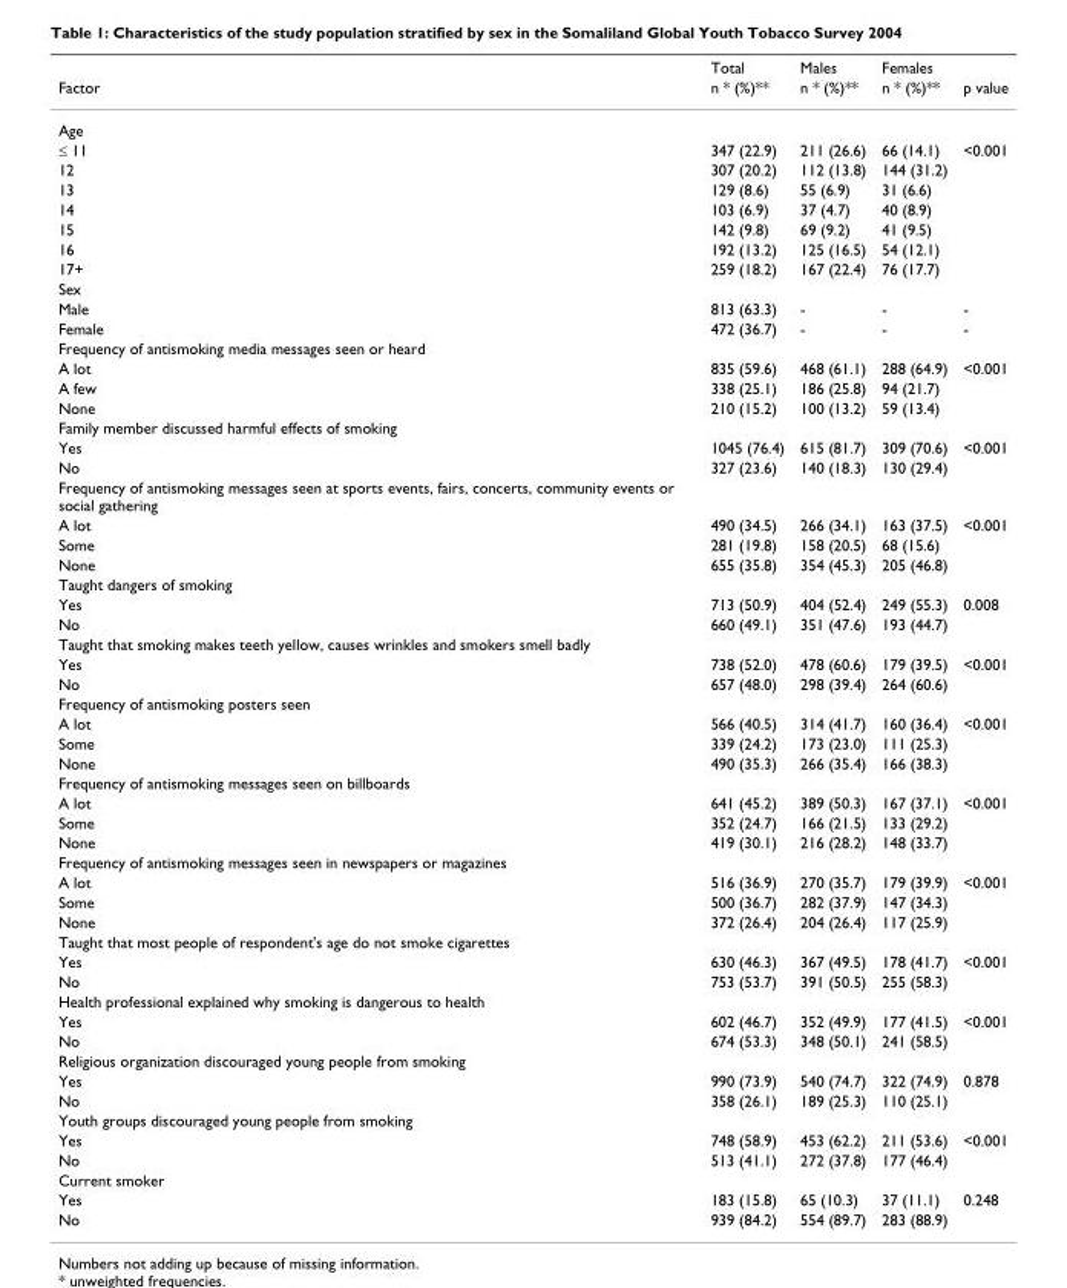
<table><thead><tr><td rowspan="2">Factor</td><td rowspan="2">Total n * (%)**</td><td rowspan="2">Males n * (%)**</td><td rowspan="2">Females n * (%)**</td><td rowspan="2">p value</td></tr><tr></tr></thead><tbody><tr><td colspan="5">Age</td></tr><tr><td>≤ 11</td><td>347 (22.9)</td><td>211 (26.6)</td><td>66 (14.1)</td><td>&lt;0.001</td></tr><tr><td>12</td><td>307 (20.2)</td><td>112 (13.8)</td><td>144 (31.2)</td><td></td></tr><tr><td>13</td><td>129 (8.6)</td><td>55 (6.9)</td><td>31 (6.6)</td><td></td></tr><tr><td>14</td><td>103 (6.9)</td><td>37 (4.7)</td><td>40 (8.9)</td><td></td></tr><tr><td>15</td><td>142 (9.8)</td><td>69 (9.2)</td><td>41 (9.5)</td><td></td></tr><tr><td>16</td><td>192 (13.2)</td><td>125 (16.5)</td><td>54 (12.1)</td><td></td></tr><tr><td>17+</td><td>259 (18.2)</td><td>167 (22.4)</td><td>76 (17.7)</td><td></td></tr><tr><td colspan="5">Sex</td></tr><tr><td>Male</td><td>813 (63.3)</td><td>-</td><td>-</td><td>-</td></tr><tr><td>Female</td><td>472 (36.7)</td><td>-</td><td>-</td><td>-</td></tr><tr><td colspan="5">Frequency of antismoking media messages seen or heard</td></tr><tr><td>A lot</td><td>835 (59.6)</td><td>468 (61.1)</td><td>288 (64.9)</td><td>&lt;0.001</td></tr><tr><td>A few</td><td>338 (25.1)</td><td>186 (25.8)</td><td>94 (21.7)</td><td></td></tr><tr><td>None</td><td>210 (15.2)</td><td>100 (13.2)</td><td>59 (13.4)</td><td></td></tr><tr><td colspan="5">Family member discussed harmful effects of smoking</td></tr><tr><td>Yes</td><td>1045 (76.4)</td><td>615 (81.7)</td><td>309 (70.6)</td><td>&lt;0.001</td></tr><tr><td>No</td><td>327 (23.6)</td><td>140 (18.3)</td><td>130 (29.4)</td><td></td></tr><tr><td colspan="5">Frequency of antismoking messages seen at sports events, fairs, concerts, community events or social gathering</td></tr><tr><td>A lot</td><td>490 (34.5)</td><td>266 (34.1)</td><td>163 (37.5)</td><td>&lt;0.001</td></tr><tr><td>Some</td><td>281 (19.8)</td><td>158 (20.5)</td><td>68 (15.6)</td><td></td></tr><tr><td>None</td><td>655 (35.8)</td><td>354 (45.3)</td><td>205 (46.8)</td><td></td></tr><tr><td colspan="5">Taught dangers of smoking</td></tr><tr><td>Yes</td><td>713 (50.9)</td><td>404 (52.4)</td><td>249 (55.3)</td><td>0.008</td></tr><tr><td>No</td><td>660 (49.1)</td><td>351 (47.6)</td><td>193 (44.7)</td><td></td></tr><tr><td colspan="5">Taught that smoking makes teeth yellow, causes wrinkles and smokers smell badly</td></tr><tr><td>Yes</td><td>738 (52.0)</td><td>478 (60.6)</td><td>179 (39.5)</td><td>&lt;0.001</td></tr><tr><td>No</td><td>657 (48.0)</td><td>298 (39.4)</td><td>264 (60.6)</td><td></td></tr><tr><td colspan="5">Frequency of antismoking posters seen</td></tr><tr><td>A lot</td><td>566 (40.5)</td><td>314 (41.7)</td><td>160 (36.4)</td><td>&lt;0.001</td></tr><tr><td>Some</td><td>339 (24.2)</td><td>173 (23.0)</td><td>111 (25.3)</td><td></td></tr><tr><td>None</td><td>490 (35.3)</td><td>266 (35.4)</td><td>166 (38.3)</td><td></td></tr><tr><td colspan="5">Frequency of antismoking messages seen on billboards</td></tr><tr><td>A lot</td><td>641 (45.2)</td><td>389 (50.3)</td><td>167 (37.1)</td><td>&lt;0.001</td></tr><tr><td>Some</td><td>352 (24.7)</td><td>166 (21.5)</td><td>133 (29.2)</td><td></td></tr><tr><td>None</td><td>419 (30.1)</td><td>216 (28.2)</td><td>148 (33.7)</td><td></td></tr><tr><td colspan="5">Frequency of antismoking messages seen in newspapers or magazines</td></tr><tr><td>A lot</td><td>516 (36.9)</td><td>270 (35.7)</td><td>179 (39.9)</td><td>&lt;0.001</td></tr><tr><td>Some</td><td>500 (36.7)</td><td>282 (37.9)</td><td>147 (34.3)</td><td></td></tr><tr><td>None</td><td>372 (26.4)</td><td>204 (26.4)</td><td>117 (25.9)</td><td></td></tr><tr><td colspan="5">Taught that most people of respondent&#x27;s age do not smoke cigarettes</td></tr><tr><td>Yes</td><td>630 (46.3)</td><td>367 (49.5)</td><td>178 (41.7)</td><td>&lt;0.001</td></tr><tr><td>No</td><td>753 (53.7)</td><td>391 (50.5)</td><td>255 (58.3)</td><td></td></tr><tr><td colspan="5">Health professional explained why smoking is dangerous to health</td></tr><tr><td>Yes</td><td>602 (46.7)</td><td>352 (49.9)</td><td>177 (41.5)</td><td>&lt;0.001</td></tr><tr><td>No</td><td>674 (53.3)</td><td>348 (50.1)</td><td>241 (58.5)</td><td></td></tr><tr><td colspan="5">Religious organization discouraged young people from smoking</td></tr><tr><td>Yes</td><td>990 (73.9)</td><td>540 (74.7)</td><td>322 (74.9)</td><td>0.878</td></tr><tr><td>No</td><td>358 (26.1)</td><td>189 (25.3)</td><td>110 (25.1)</td><td></td></tr><tr><td colspan="5">Youth groups discouraged young people from smoking</td></tr><tr><td>Yes</td><td>748 (58.9)</td><td>453 (62.2)</td><td>211 (53.6)</td><td>&lt;0.001</td></tr><tr><td>No</td><td>513 (41.1)</td><td>272 (37.8)</td><td>177 (46.4)</td><td></td></tr><tr><td colspan="5">Current smoker</td></tr><tr><td>Yes</td><td>183 (15.8)</td><td>65 (10.3)</td><td>37 (11.1)</td><td>0.248</td></tr><tr><td>No</td><td>939 (84.2)</td><td>554 (89.7)</td><td>283 (88.9)</td><td></td></tr></tbody></table>